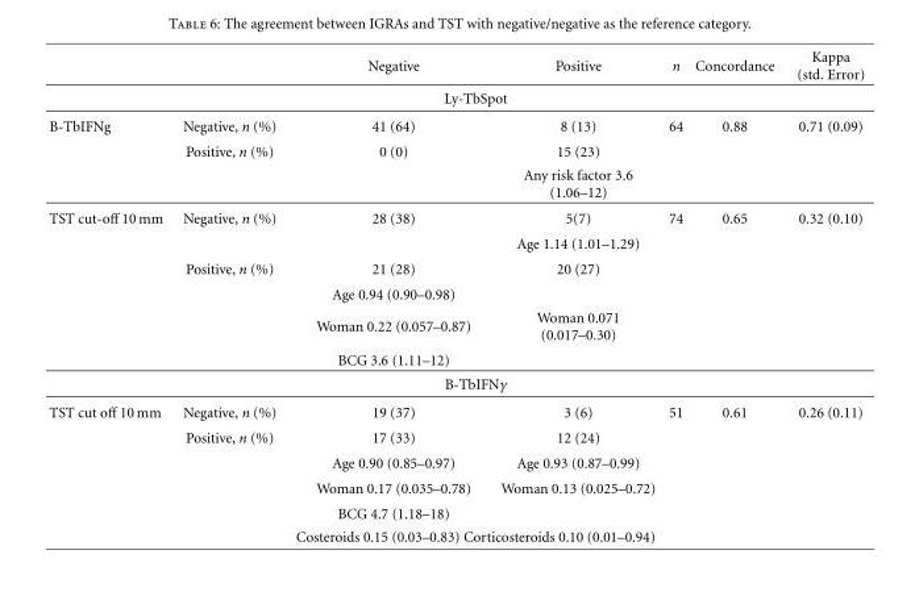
<table><thead><tr><td></td><td></td><td>Negative</td><td>Positive</td><td>n</td><td>Concordance</td><td>Kappa (std. Error)</td></tr></thead><tbody><tr><td></td><td></td><td colspan="2">Ly-TbSpot</td><td></td><td></td><td></td></tr><tr><td rowspan="3">B-TbIFNg</td><td>Negative, n (%)</td><td>41 (64)</td><td>8 (13)</td><td>64</td><td>0.88</td><td>0.71 (0.09)</td></tr><tr><td>Positive, n (%)</td><td>0 (0)</td><td>15 (23)</td><td></td><td></td><td></td></tr><tr><td></td><td></td><td>Any risk factor 3.6 (1.06–12)</td><td></td><td></td><td></td></tr><tr><td rowspan="7">TST cut-off 10 mm</td><td>Negative, n (%)</td><td>28 (38)</td><td>5(7)</td><td>74</td><td>0.65</td><td>0.32 (0.10)</td></tr><tr><td></td><td></td><td>Age 1.14 (1.01–1.29)</td><td></td><td></td><td></td></tr><tr><td>Positive, n (%)</td><td>21 (28)</td><td>20 (27)</td><td></td><td></td><td></td></tr><tr><td></td><td>Age 0.94 (0.90–0.98)</td><td></td><td></td><td></td><td></td></tr><tr><td></td><td>Woman 0.22 (0.057–0.87)</td><td>Woman 0.071 (0.017–0.30)</td><td></td><td></td><td></td></tr><tr><td></td><td>BCG 3.6 (1.11–12)</td><td></td><td></td><td></td><td></td></tr><tr><td></td><td colspan="2">B-TbIFNγ</td><td></td><td></td><td></td></tr><tr><td rowspan="6">TST cut off 10 mm</td><td>Negative, n (%)</td><td>19 (37)</td><td>3 (6)</td><td>51</td><td>0.61</td><td>0.26 (0.11)</td></tr><tr><td>Positive, n (%)</td><td>17 (33)</td><td>12 (24)</td><td></td><td></td><td></td></tr><tr><td></td><td>Age 0.90 (0.85–0.97)</td><td>Age 0.93 (0.87–0.99)</td><td></td><td></td><td></td></tr><tr><td></td><td>Woman 0.17 (0.035–0.78)</td><td>Woman 0.13 (0.025–0.72)</td><td></td><td></td><td></td></tr><tr><td></td><td>BCG 4.7 (1.18–18)</td><td></td><td></td><td></td><td></td></tr><tr><td></td><td colspan="2">Costeroids 0.15 (0.03–0.83) Corticosteroids 0.10 (0.01–0.94)</td><td></td><td></td><td></td></tr></tbody></table>